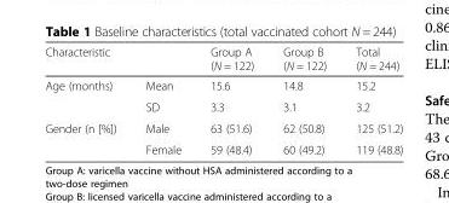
<table><thead><tr><td colspan="2">Characteristic</td><td rowspan="2">Group A (N = 122) 15.6</td><td rowspan="2">Group B (N = 122) 14.8</td><td rowspan="2">Total (N = 244) 15.2</td></tr><tr><td>Age (months)</td><td>Mean</td></tr></thead><tbody><tr><td></td><td>SD</td><td>3.3</td><td>3.1</td><td>3.2</td></tr><tr><td rowspan="2">Gender (n [%])</td><td>Male</td><td>63 (51.6)</td><td>62 (50.8)</td><td>125 (51.2)</td></tr><tr><td>Female</td><td>59 (48.4)</td><td>60 (49.2)</td><td>119 (48.8)</td></tr></tbody></table>